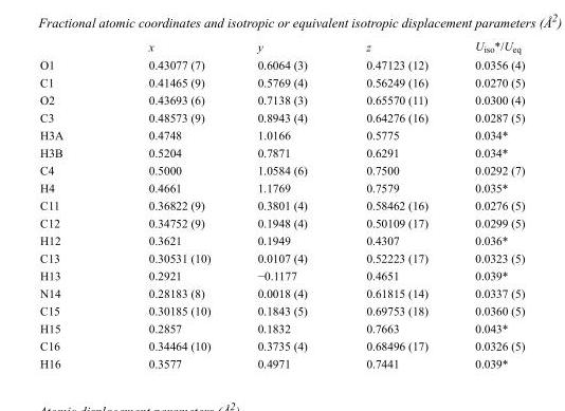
<table><thead><tr><td></td><td>x</td><td>y</td><td>z</td><td>U<sub>iso</sub>*/U<sub>eq</sub></td></tr></thead><tbody><tr><td>O1</td><td>0.43077 (7)</td><td>0.6064 (3)</td><td>0.47123 (12)</td><td>0.0356 (4)</td></tr><tr><td>C1</td><td>0.41465 (9)</td><td>0.5769 (4)</td><td>0.56249 (16)</td><td>0.0270 (5)</td></tr><tr><td>O2</td><td>0.43693 (6)</td><td>0.7138 (3)</td><td>0.65570 (11)</td><td>0.0300 (4)</td></tr><tr><td>C3</td><td>0.48573 (9)</td><td>0.8943 (4)</td><td>0.64276 (16)</td><td>0.0287 (5)</td></tr><tr><td>H3A</td><td>0.4748</td><td>1.0166</td><td>0.5775</td><td>0.034*</td></tr><tr><td>H3B</td><td>0.5204</td><td>0.7871</td><td>0.6291</td><td>0.034*</td></tr><tr><td>C4</td><td>0.5000</td><td>1.0584 (6)</td><td>0.7500</td><td>0.0292 (7)</td></tr><tr><td>H4</td><td>0.4661</td><td>1.1769</td><td>0.7579</td><td>0.035*</td></tr><tr><td>C11</td><td>0.36822 (9)</td><td>0.3801 (4)</td><td>0.58462 (16)</td><td>0.0276 (5)</td></tr><tr><td>C12</td><td>0.34752 (9)</td><td>0.1948 (4)</td><td>0.50109 (17)</td><td>0.0299 (5)</td></tr><tr><td>H12</td><td>0.3621</td><td>0.1949</td><td>0.4307</td><td>0.036*</td></tr><tr><td>C13</td><td>0.30531 (10)</td><td>0.0107 (4)</td><td>0.52223 (17)</td><td>0.0323 (5)</td></tr><tr><td>H13</td><td>0.2921</td><td>−0.1177</td><td>0.4651</td><td>0.039*</td></tr><tr><td>N14</td><td>0.28183 (8)</td><td>0.0018 (4)</td><td>0.61815 (14)</td><td>0.0337 (5)</td></tr><tr><td>C15</td><td>0.30185 (10)</td><td>0.1843 (5)</td><td>0.69753 (18)</td><td>0.0360 (5)</td></tr><tr><td>H15</td><td>0.2857</td><td>0.1832</td><td>0.7663</td><td>0.043*</td></tr><tr><td>C16</td><td>0.34464 (10)</td><td>0.3735 (4)</td><td>0.68496 (17)</td><td>0.0326 (5)</td></tr><tr><td>H16</td><td>0.3577</td><td>0.4971</td><td>0.7441</td><td>0.039*</td></tr></tbody></table>